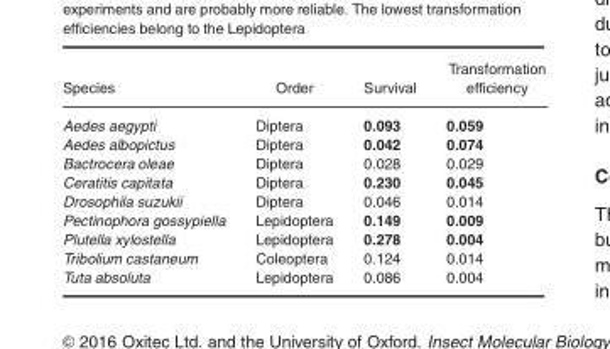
<table><thead><tr><td>Species</td><td>Order</td><td>Survival</td><td>Transformation efficiency</td></tr></thead><tbody><tr><td>Aedes aegypti</td><td>Diptera</td><td>0.093</td><td>0.059</td></tr><tr><td>Aedes albopictus</td><td>Diptera</td><td>0.042</td><td>0.074</td></tr><tr><td>Bactrocera oleae</td><td>Diptera</td><td>0.028</td><td>0.029</td></tr><tr><td>Ceratitis capitata</td><td>Diptera</td><td>0.230</td><td>0.045</td></tr><tr><td>Drosophila suzukii</td><td>Diptera</td><td>0.046</td><td>0.014</td></tr><tr><td>Pectinophora gossypiella</td><td>Lepidoptera</td><td>0.149</td><td>0.009</td></tr><tr><td>Plutella xylostella</td><td>Lepidoptera</td><td>0.278</td><td>0.004</td></tr><tr><td>Tribolium castaneum</td><td>Coleoptera</td><td>0.124</td><td>0.014</td></tr><tr><td>Tuta absoluta</td><td>Lepidoptera</td><td>0.086</td><td>0.004</td></tr></tbody></table>